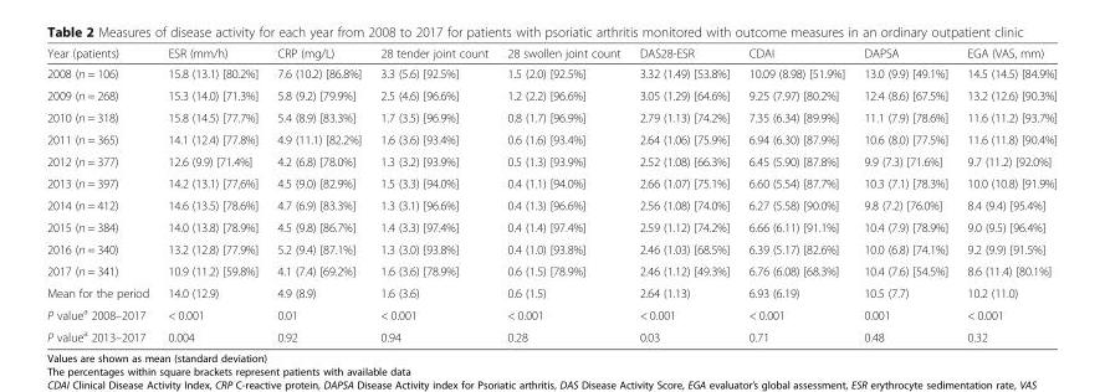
<table><thead><tr><td>Year (patients)</td><td>ESR (mm/h)</td><td>CRP (mg/L)</td><td>28 tender joint count</td><td>28 swollen joint count</td><td>DAS28-ESR</td><td>CDAI</td><td>DAPSA</td><td>EGA (VAS, mm)</td></tr></thead><tbody><tr><td>2008 (n = 106)</td><td>15.8 (13.1) [80.2%]</td><td>7.6 (10.2) [86.8%]</td><td>3.3 (5.6) [92.5%]</td><td>1.5 (2.0) [92.5%]</td><td>3.32 (1.49) [53.8%]</td><td>10.09 (8.98) [51.9%]</td><td>13.0 (9.9) [49.1%]</td><td>14.5 (14.5) [84.9%]</td></tr><tr><td>2009 (n = 268)</td><td>15.3 (14.0) [71.3%]</td><td>5.8 (9.2) [79.9%]</td><td>2.5 (4.6) [96.6%]</td><td>1.2 (2.2) [96.6%]</td><td>3.05 (1.29) [64.6%]</td><td>9.25 (7.97) [80.2%]</td><td>12.4 (8.6) [67.5%]</td><td>13.2 (12.6) [90.3%]</td></tr><tr><td>2010 (n = 318)</td><td>15.8 (14.5) [77.7%]</td><td>5.4 (8.9) [83.3%]</td><td>1.7 (3.5) [96.9%]</td><td>0.8 (1.7) [96.9%]</td><td>2.79 (1.13) [74.2%]</td><td>7.35 (6.34) [89.9%]</td><td>11.1 (7.9) [78.6%]</td><td>11.6 (11.2) [93.7%]</td></tr><tr><td>2011 (n = 365)</td><td>14.1 (12.4) [77.8%]</td><td>4.9 (11.1) [82.2%]</td><td>1.6 (3.6) [93.4%]</td><td>0.6 (1.6) [93.4%]</td><td>2.64 (1.06) [75.9%]</td><td>6.94 (6.30) [87.9%]</td><td>10.6 (8.0) [77.5%]</td><td>11.6 (11.8) [90.4%]</td></tr><tr><td>2012 (n = 377)</td><td>12.6 (9.9) [71.4%]</td><td>4.2 (6.8) [78.0%]</td><td>1.3 (3.2) [93.9%]</td><td>0.5 (1.3) [93.9%]</td><td>2.52 (1.08) [66.3%]</td><td>6.45 (5.90) [87.8%]</td><td>9.9 (7.3) [71.6%]</td><td>9.7 (11.2) [92.0%]</td></tr><tr><td>2013 (n = 397)</td><td>14.2 (13.1) [77,6%]</td><td>4.5 (9.0) [82.9%]</td><td>1.5 (3.3) [94.0%]</td><td>0.4 (1.1) [94.0%]</td><td>2.66 (1.07) [75.1%]</td><td>6.60 (5.54) [87.7%]</td><td>10.3 (7.1) [78.3%]</td><td>10.0 (10.8) [91.9%]</td></tr><tr><td>2014 (n = 412)</td><td>14.6 (13.5) [78.6%]</td><td>4.7 (6.9) [83.3%]</td><td>1.3 (3.1) [96.6%]</td><td>0.4 (1.3) [96.6%]</td><td>2.56 (1.08) [74.0%]</td><td>6.27 (5.58) [90.0%]</td><td>9.8 (7.2) [76.0%]</td><td>8.4 (9.4) [95.4%]</td></tr><tr><td>2015 (n = 384)</td><td>14.0 (13.8) [78.9%]</td><td>4.5 (9.8) [86.7%]</td><td>1.4 (3.3) [97.4%]</td><td>0.4 (1.4) [97.4%]</td><td>2.59 (1.12) [74.2%]</td><td>6.66 (6.11) [91.1%]</td><td>10.4 (7.9) [78.9%]</td><td>9.0 (9.5) [96.4%]</td></tr><tr><td>2016 (n = 340)</td><td>13.2 (12.8) [77.9%]</td><td>5.2 (9.4) [87.1%]</td><td>1.3 (3.0) [93.8%]</td><td>0.4 (1.0) [93.8%]</td><td>2.46 (1.03) [68.5%]</td><td>6.39 (5.17) [82.6%]</td><td>10.0 (6.8) [74.1%]</td><td>9.2 (9.9) [91.5%]</td></tr><tr><td>2017 (n = 341)</td><td>10.9 (11.2) [59.8%]</td><td>4.1 (7.4) [69.2%]</td><td>1.6 (3.6) [78.9%]</td><td>0.6 (1.5) [78.9%]</td><td>2.46 (1.12) [49.3%]</td><td>6.76 (6.08) [68.3%]</td><td>10.4 (7.6) [54.5%]</td><td>8.6 (11.4) [80.1%]</td></tr><tr><td>Mean for the period</td><td>14.0 (12.9)</td><td>4.9 (8.9)</td><td>1.6 (3.6)</td><td>0.6 (1.5)</td><td>2.64 (1.13)</td><td>6.93 (6.19)</td><td>10.5 (7.7)</td><td>10.2 (11.0)</td></tr><tr><td>P value<sup>a</sup> 2008–2017</td><td>&lt; 0.001</td><td>0.01</td><td>&lt; 0.001</td><td>&lt; 0.001</td><td>&lt; 0.001</td><td>&lt; 0.001</td><td>0.001</td><td>&lt; 0.001</td></tr><tr><td>P value<sup>a</sup> 2013–2017</td><td>0.004</td><td>0.92</td><td>0.94</td><td>0.28</td><td>0.03</td><td>0.71</td><td>0.48</td><td>0.32</td></tr></tbody></table>